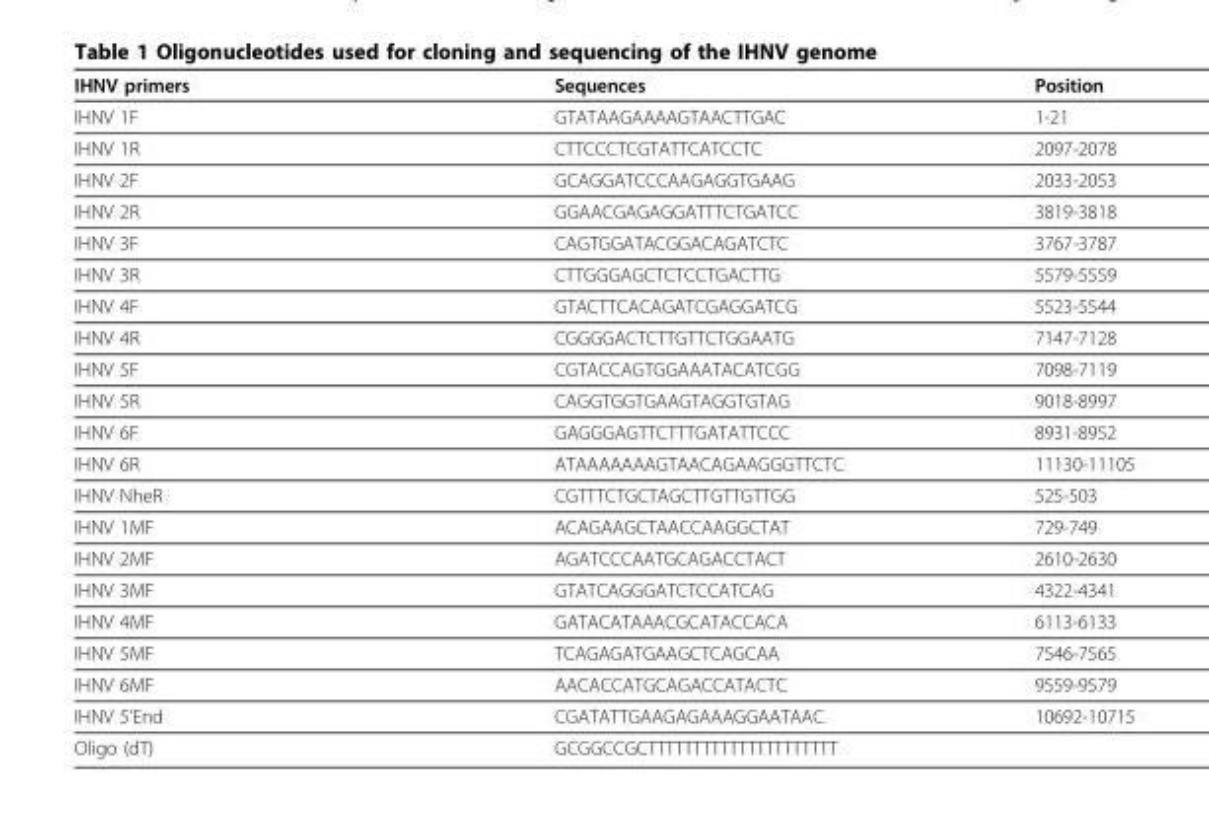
<table><thead><tr><td>IHNV primers</td><td>Sequences</td><td>Position</td></tr></thead><tbody><tr><td>IHNV 1F</td><td>GTATAAGAAAAGTAACTTGAC</td><td>1-21</td></tr><tr><td>IHNV 1R</td><td>CTTCCCTCGTATTCATCCTC</td><td>2097-2078</td></tr><tr><td>IHNV 2F</td><td>GCAGGATCCCAAGAGGTGAAG</td><td>2033-2053</td></tr><tr><td>IHNV 2R</td><td>GGAACGAGAGGATTTCTGATCC</td><td>3819-3818</td></tr><tr><td>IHNV 3F</td><td>CAGTGGATACGGACAGATCTC</td><td>3767-3787</td></tr><tr><td>IHNV 3R</td><td>CTTGGGAGCTCTCCTGACTTG</td><td>5579-5559</td></tr><tr><td>IHNV 4F</td><td>GTACTTCACAGATCGAGGATCG</td><td>5523-5544</td></tr><tr><td>IHNV 4R</td><td>CGGGGACTCTTGTTCTGGAATG</td><td>7147-7128</td></tr><tr><td>IHNV 5F</td><td>CGTACCAGTGGAAATACATCGG</td><td>7098-7119</td></tr><tr><td>IHNV 5R</td><td>CAGGTGGTGAAGTAGGTGTAG</td><td>9018-8997</td></tr><tr><td>IHNV 6F</td><td>GAGGGAGTTCTTTGATATTCCC</td><td>8931-8952</td></tr><tr><td>IHNV 6R</td><td>ATAAAAAAAGTAACAGAAGGGTTCTC</td><td>11130-11105</td></tr><tr><td>IHNV NheR</td><td>CGTTTCTGCTAGCTTGTTGTTGG</td><td>525-503</td></tr><tr><td>IHNV 1MF</td><td>ACAGAAGCTAACCAAGGCTAT</td><td>729-749</td></tr><tr><td>IHNV 2MF</td><td>AGATCCCAATGCAGACCTACT</td><td>2610-2630</td></tr><tr><td>IHNV 3MF</td><td>GTATCAGGGATCTCCATCAG</td><td>4322-4341</td></tr><tr><td>IHNV 4MF</td><td>GATACATAAACGCATACCACA</td><td>6113-6133</td></tr><tr><td>IHNV 5MF</td><td>TCAGAGATGAAGCTCAGCAA</td><td>7546-7565</td></tr><tr><td>IHNV 6MF</td><td>AACACCATGCAGACCATACTC</td><td>9559-9579</td></tr><tr><td>IHNV 5’End</td><td>CGATATTGAAGAGAAAGGAATAAC</td><td>10692-10715</td></tr><tr><td>Oligo (dT)</td><td>GCGGCCGCTTTTTTTTTTTTTTTTTTTTT</td><td></td></tr></tbody></table>